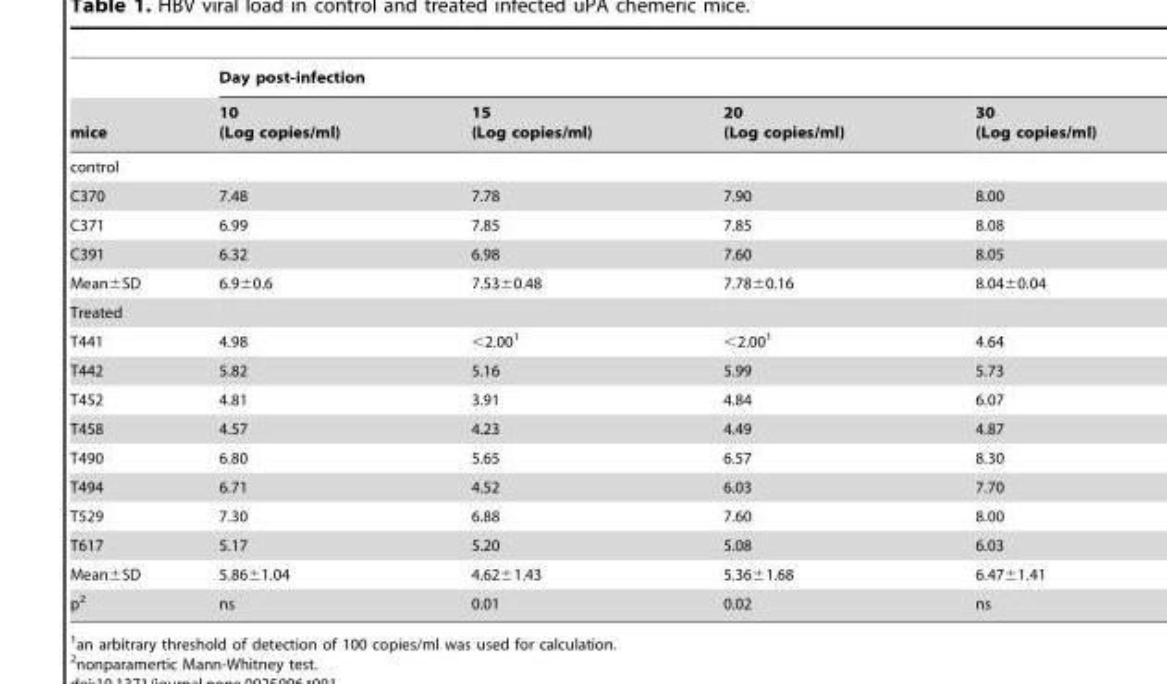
<table><thead><tr><td rowspan="2">mice</td><td colspan="4">Day post-infection</td></tr><tr><td>10 (Log copies/ml)</td><td>15 (Log copies/ml)</td><td>20 (Log copies/ml)</td><td>30 (Log copies/ml)</td></tr></thead><tbody><tr><td colspan="5">control</td></tr><tr><td>C370</td><td>7.48</td><td>7.78</td><td>7.90</td><td>8.00</td></tr><tr><td>C371</td><td>6.99</td><td>7.85</td><td>7.85</td><td>8.08</td></tr><tr><td>C391</td><td>6.32</td><td>6.98</td><td>7.60</td><td>8.05</td></tr><tr><td>Mean±SD</td><td>6.9±0.6</td><td>7.53±0.48</td><td>7.78±0.16</td><td>8.04±0.04</td></tr><tr><td colspan="5">Treated</td></tr><tr><td>T441</td><td>4.98</td><td>&lt;2.00<sup>1</sup></td><td>&lt;2.00<sup>1</sup></td><td>4.64</td></tr><tr><td>T442</td><td>5.82</td><td>5.16</td><td>5.99</td><td>5.73</td></tr><tr><td>T452</td><td>4.81</td><td>3.91</td><td>4.84</td><td>6.07</td></tr><tr><td>T458</td><td>4.57</td><td>4.23</td><td>4.49</td><td>4.87</td></tr><tr><td>T490</td><td>6.80</td><td>5.65</td><td>6.57</td><td>8.30</td></tr><tr><td>T494</td><td>6.71</td><td>4.52</td><td>6.03</td><td>7.70</td></tr><tr><td>T529</td><td>7.30</td><td>6.88</td><td>7.60</td><td>8.00</td></tr><tr><td>T617</td><td>5.17</td><td>5.20</td><td>5.08</td><td>6.03</td></tr><tr><td>Mean±SD</td><td>5.86±1.04</td><td>4.62±1.43</td><td>5.36±1.68</td><td>6.47±1.41</td></tr><tr><td>p<sup>2</sup></td><td>ns</td><td>0.01</td><td>0.02</td><td>ns</td></tr></tbody></table>